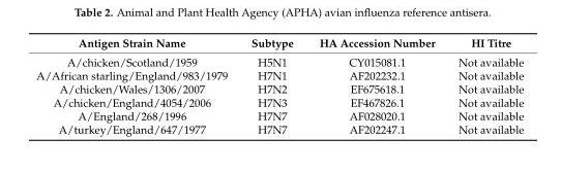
<table><thead><tr><td>Antigen Strain Name</td><td>Subtype</td><td>HA Accession Number</td><td>HI Titre</td></tr></thead><tbody><tr><td>A/chicken/Scotland/1959</td><td>H5N1</td><td>CY015081.1</td><td>Not available</td></tr><tr><td>A/African starling/England/983/1979</td><td>H7N1</td><td>AF202232.1</td><td>Not available</td></tr><tr><td>A/chicken/Wales/1306/2007</td><td>H7N2</td><td>EF675618.1</td><td>Not available</td></tr><tr><td>A/chicken/England/4054/2006</td><td>H7N3</td><td>EF467826.1</td><td>Not available</td></tr><tr><td>A/England/268/1996</td><td>H7N7</td><td>AF028020.1</td><td>Not available</td></tr><tr><td>A/turkey/England/647/1977</td><td>H7N7</td><td>AF202247.1</td><td>Not available</td></tr></tbody></table>